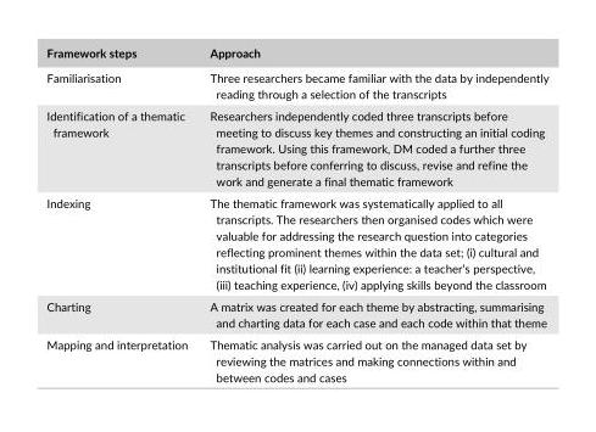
<table><thead><tr><td>Framework steps</td><td>Approach</td></tr></thead><tbody><tr><td>Familiarisation</td><td>Three researchers became familiar with the data by independently reading through a selection of the transcripts</td></tr><tr><td>Identification of a thematic framework</td><td>Researchers independently coded three transcripts before meeting to discuss key themes and constructing an initial coding framework. Using this framework, DM coded a further three transcripts before conferring to discuss, revise and refine the work and generate a final thematic framework</td></tr><tr><td>Indexing</td><td>The thematic framework was systematically applied to all transcripts. The researchers then organised codes which were valuable for addressing the research question into categories reflecting prominent themes within the data set; (i) cultural and institutional fit (ii) learning experience: a teacher’s perspective, (iii) teaching experience, (iv) applying skills beyond the classroom</td></tr><tr><td>Charting</td><td>A matrix was created for each theme by abstracting, summarising and charting data for each case and each code within that theme</td></tr><tr><td>Mapping and interpretation</td><td>Thematic analysis was carried out on the managed data set by reviewing the matrices and making connections within and between codes and cases</td></tr></tbody></table>